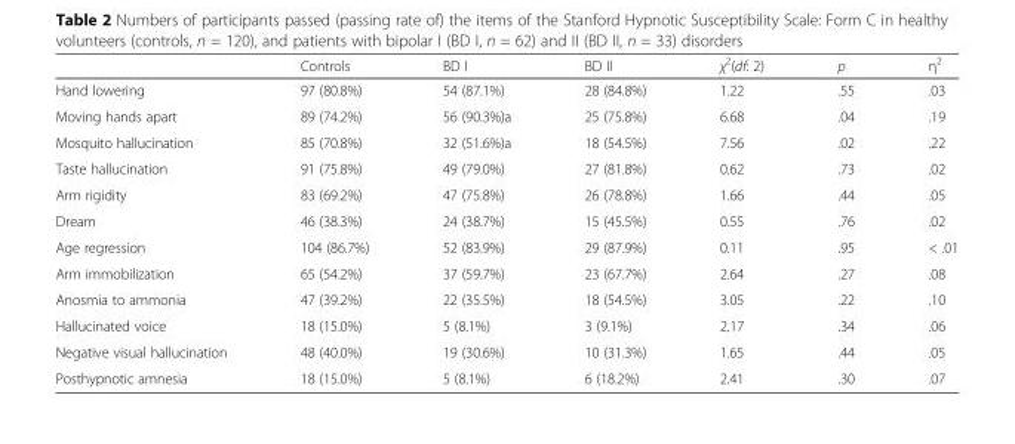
<table><thead><tr><td></td><td>Controls</td><td>BD I</td><td>BD II</td><td>χ<sup>2</sup>(df: 2)</td><td>p</td><td>η<sup>2</sup></td></tr></thead><tbody><tr><td>Hand lowering</td><td>97 (80.8%)</td><td>54 (87.1%)</td><td>28 (84.8%)</td><td>1.22</td><td>.55</td><td>.03</td></tr><tr><td>Moving hands apart</td><td>89 (74.2%)</td><td>56 (90.3%)a</td><td>25 (75.8%)</td><td>6.68</td><td>.04</td><td>.19</td></tr><tr><td>Mosquito hallucination</td><td>85 (70.8%)</td><td>32 (51.6%)a</td><td>18 (54.5%)</td><td>7.56</td><td>.02</td><td>.22</td></tr><tr><td>Taste hallucination</td><td>91 (75.8%)</td><td>49 (79.0%)</td><td>27 (81.8%)</td><td>0.62</td><td>.73</td><td>.02</td></tr><tr><td>Arm rigidity</td><td>83 (69.2%)</td><td>47 (75.8%)</td><td>26 (78.8%)</td><td>1.66</td><td>.44</td><td>.05</td></tr><tr><td>Dream</td><td>46 (38.3%)</td><td>24 (38.7%)</td><td>15 (45.5%)</td><td>0.55</td><td>.76</td><td>.02</td></tr><tr><td>Age regression</td><td>104 (86.7%)</td><td>52 (83.9%)</td><td>29 (87.9%)</td><td>0.11</td><td>.95</td><td>&lt; .01</td></tr><tr><td>Arm immobilization</td><td>65 (54.2%)</td><td>37 (59.7%)</td><td>23 (67.7%)</td><td>2.64</td><td>.27</td><td>.08</td></tr><tr><td>Anosmia to ammonia</td><td>47 (39.2%)</td><td>22 (35.5%)</td><td>18 (54.5%)</td><td>3.05</td><td>.22</td><td>.10</td></tr><tr><td>Hallucinated voice</td><td>18 (15.0%)</td><td>5 (8.1%)</td><td>3 (9.1%)</td><td>2.17</td><td>.34</td><td>.06</td></tr><tr><td>Negative visual hallucination</td><td>48 (40.0%)</td><td>19 (30.6%)</td><td>10 (31.3%)</td><td>1.65</td><td>.44</td><td>.05</td></tr><tr><td>Posthypnotic amnesia</td><td>18 (15.0%)</td><td>5 (8.1%)</td><td>6 (18.2%)</td><td>2.41</td><td>.30</td><td>.07</td></tr></tbody></table>